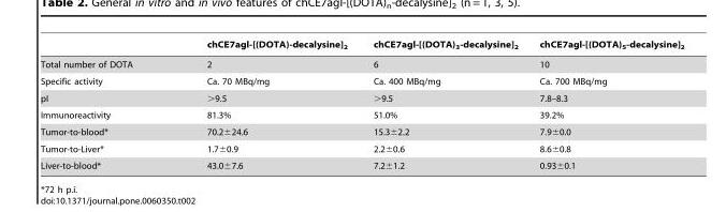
<table><thead><tr><td></td><td>chCE7agl-[(DOTA)-decalysine]<sub>2</sub></td><td>chCE7agl-[(DOTA)<sub>3</sub>-decalysine]<sub>2</sub></td><td>chCE7agl-[(DOTA)<sub>5</sub>-decalysine]<sub>2</sub></td></tr></thead><tbody><tr><td>Total number of DOTA</td><td>2</td><td>6</td><td>10</td></tr><tr><td>Specific activity</td><td>Ca. 70 MBq/mg</td><td>Ca. 400 MBq/mg</td><td>Ca. 700 MBq/mg</td></tr><tr><td>pI</td><td>&gt;9.5</td><td>&gt;9.5</td><td>7.8–8.3</td></tr><tr><td>Immunoreactivity</td><td>81.3%</td><td>51.0%</td><td>39.2%</td></tr><tr><td>Tumor-to-blood*</td><td>70.2±24.6</td><td>15.3±2.2</td><td>7.9±0.0</td></tr><tr><td>Tumor-to-Liver*</td><td>1.7±0.9</td><td>2.2±0.6</td><td>8.6±0.8</td></tr><tr><td>Liver-to-blood*</td><td>43.0±7.6</td><td>7.2±1.2</td><td>0.93±0.1</td></tr></tbody></table>